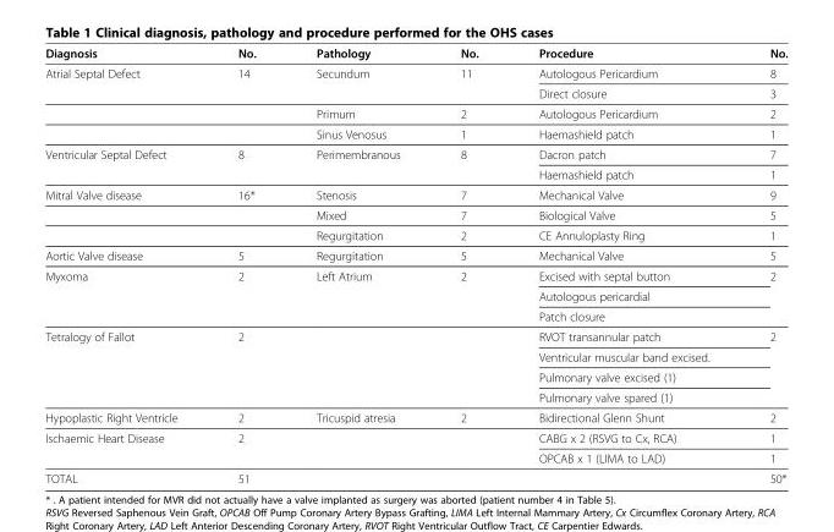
<table><thead><tr><td>Diagnosis</td><td>No.</td><td>Pathology</td><td>No.</td><td>Procedure</td><td>No.</td></tr></thead><tbody><tr><td rowspan="4">Atrial Septal Defect</td><td rowspan="2">14</td><td rowspan="2">Secundum</td><td rowspan="2">11</td><td>Autologous Pericardium</td><td>8</td></tr><tr><td>Direct closure</td><td>3</td></tr><tr><td></td><td>Primum</td><td>2</td><td>Autologous Pericardium</td><td>2</td></tr><tr><td></td><td>Sinus Venosus</td><td>1</td><td>Haemashield patch</td><td>1</td></tr><tr><td rowspan="2">Ventricular Septal Defect</td><td rowspan="2">8</td><td rowspan="2">Perimembranous</td><td rowspan="2">8</td><td>Dacron patch</td><td>7</td></tr><tr><td>Haemashield patch</td><td>1</td></tr><tr><td rowspan="3">Mitral Valve disease</td><td>16*</td><td>Stenosis</td><td>7</td><td>Mechanical Valve</td><td>9</td></tr><tr><td></td><td>Mixed</td><td>7</td><td>Biological Valve</td><td>5</td></tr><tr><td></td><td>Regurgitation</td><td>2</td><td>CE Annuloplasty Ring</td><td>1</td></tr><tr><td>Aortic Valve disease</td><td>5</td><td>Regurgitation</td><td>5</td><td>Mechanical Valve</td><td>5</td></tr><tr><td rowspan="3">Myxoma</td><td rowspan="3">2</td><td rowspan="3">Left Atrium</td><td rowspan="3">2</td><td>Excised with septal button</td><td rowspan="3">2</td></tr><tr><td>Autologous pericardial</td></tr><tr><td>Patch closure</td></tr><tr><td rowspan="4">Tetralogy of Fallot</td><td rowspan="4">2</td><td rowspan="4"></td><td rowspan="4"></td><td>RVOT transannular patch</td><td rowspan="4">2</td></tr><tr><td>Ventricular muscular band excised.</td></tr><tr><td>Pulmonary valve excised (1)</td></tr><tr><td>Pulmonary valve spared (1)</td></tr><tr><td>Hypoplastic Right Ventricle</td><td>2</td><td>Tricuspid atresia</td><td>2</td><td>Bidirectional Glenn Shunt</td><td>2</td></tr><tr><td rowspan="2">Ischaemic Heart Disease</td><td rowspan="2">2</td><td rowspan="2"></td><td rowspan="2"></td><td>CABG x 2 (RSVG to Cx, RCA)</td><td>1</td></tr><tr><td>OPCAB x 1 (LIMA to LAD)</td><td>1</td></tr><tr><td>TOTAL</td><td>51</td><td></td><td></td><td></td><td>50*</td></tr></tbody></table>